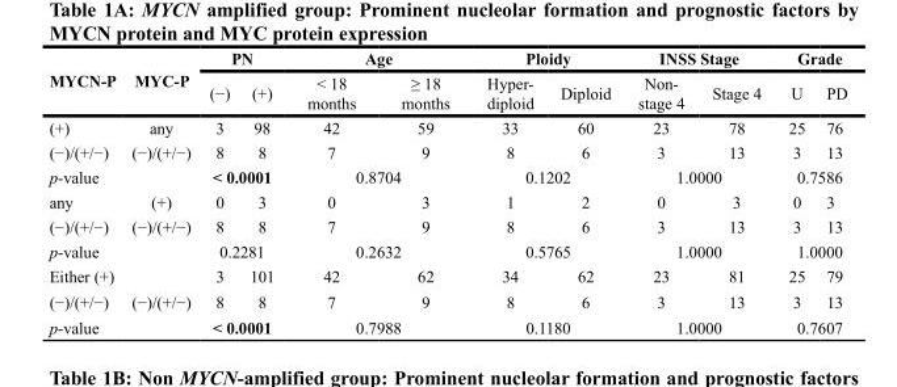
<table><thead><tr><td rowspan="2">MYCN-P</td><td rowspan="2">MYC-P</td><td colspan="2">PN</td><td colspan="2">Age</td><td colspan="2">Ploidy</td><td colspan="2">INSS Stage</td><td colspan="2">Grade</td></tr><tr><td>(−)</td><td>(+)</td><td>&lt; 18 months</td><td>≥ 18 months</td><td>Hyper- diploid</td><td>Diploid</td><td>Non- stage 4</td><td>Stage 4</td><td>U</td><td>PD</td></tr></thead><tbody><tr><td>(+)</td><td>any</td><td>3</td><td>98</td><td>42</td><td>59</td><td>33</td><td>60</td><td>23</td><td>78</td><td>25</td><td>76</td></tr><tr><td>(−)/(+/−)</td><td>(−)/(+/−)</td><td>8</td><td>8</td><td>7</td><td>9</td><td>8</td><td>6</td><td>3</td><td>13</td><td>3</td><td>13</td></tr><tr><td colspan="2">p-value</td><td colspan="2">&lt; 0.0001</td><td colspan="2">0.8704</td><td colspan="2">0.1202</td><td colspan="2">1.0000</td><td colspan="2">0.7586</td></tr><tr><td>any</td><td>(+)</td><td>0</td><td>3</td><td>0</td><td>3</td><td>1</td><td>2</td><td>0</td><td>3</td><td>0</td><td>3</td></tr><tr><td>(−)/(+/−)</td><td>(−)/(+/−)</td><td>8</td><td>8</td><td>7</td><td>9</td><td>8</td><td>6</td><td>3</td><td>13</td><td>3</td><td>13</td></tr><tr><td colspan="2">p-value</td><td colspan="2">0.2281</td><td colspan="2">0.2632</td><td colspan="2">0.5765</td><td colspan="2">1.0000</td><td colspan="2">1.0000</td></tr><tr><td colspan="2">Either (+)</td><td>3</td><td>101</td><td>42</td><td>62</td><td>34</td><td>62</td><td>23</td><td>81</td><td>25</td><td>79</td></tr><tr><td>(−)/(+/−)</td><td>(−)/(+/−)</td><td>8</td><td>8</td><td>7</td><td>9</td><td>8</td><td>6</td><td>3</td><td>13</td><td>3</td><td>13</td></tr><tr><td colspan="2">p-value</td><td colspan="2">&lt; 0.0001</td><td colspan="2">0.7988</td><td colspan="2">0.1180</td><td colspan="2">1.0000</td><td colspan="2">0.7607</td></tr></tbody></table>